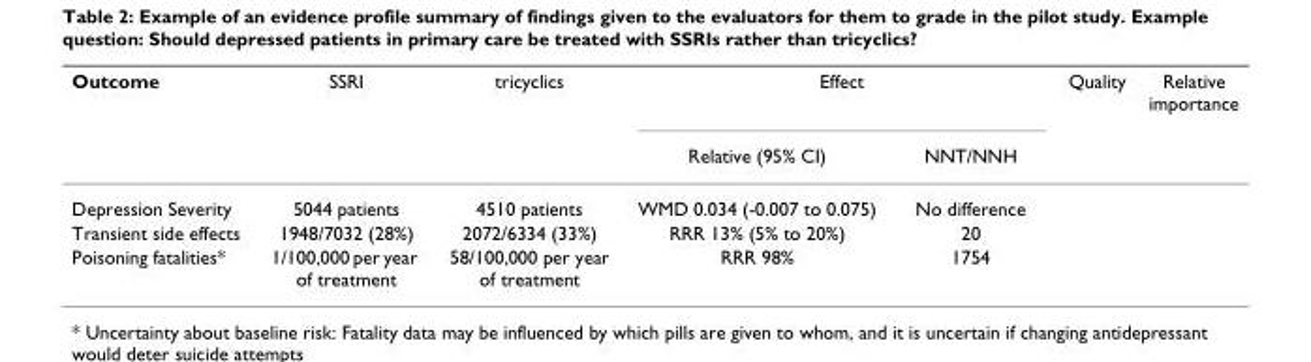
<table><thead><tr><td rowspan="2">Outcome</td><td rowspan="2">SSRI</td><td rowspan="2">tricyclics</td><td colspan="2">Effect</td><td rowspan="2">Quality</td><td rowspan="2">Relative importance</td></tr><tr><td>Relative (95% CI)</td><td>NNT/NNH</td></tr></thead><tbody><tr><td>Depression Severity</td><td>5044 patients</td><td>4510 patients</td><td>WMD 0.034 (-0.007 to 0.075)</td><td>No difference</td><td></td><td></td></tr><tr><td>Transient side effects</td><td>1948/7032 (28%)</td><td>2072/6334 (33%)</td><td>RRR 13% (5% to 20%)</td><td>20</td><td></td><td></td></tr><tr><td>Poisoning fatalities*</td><td>1/100,000 per year of treatment</td><td>58/100,000 per year of treatment</td><td>RRR 98%</td><td>1754</td><td></td><td></td></tr></tbody></table>